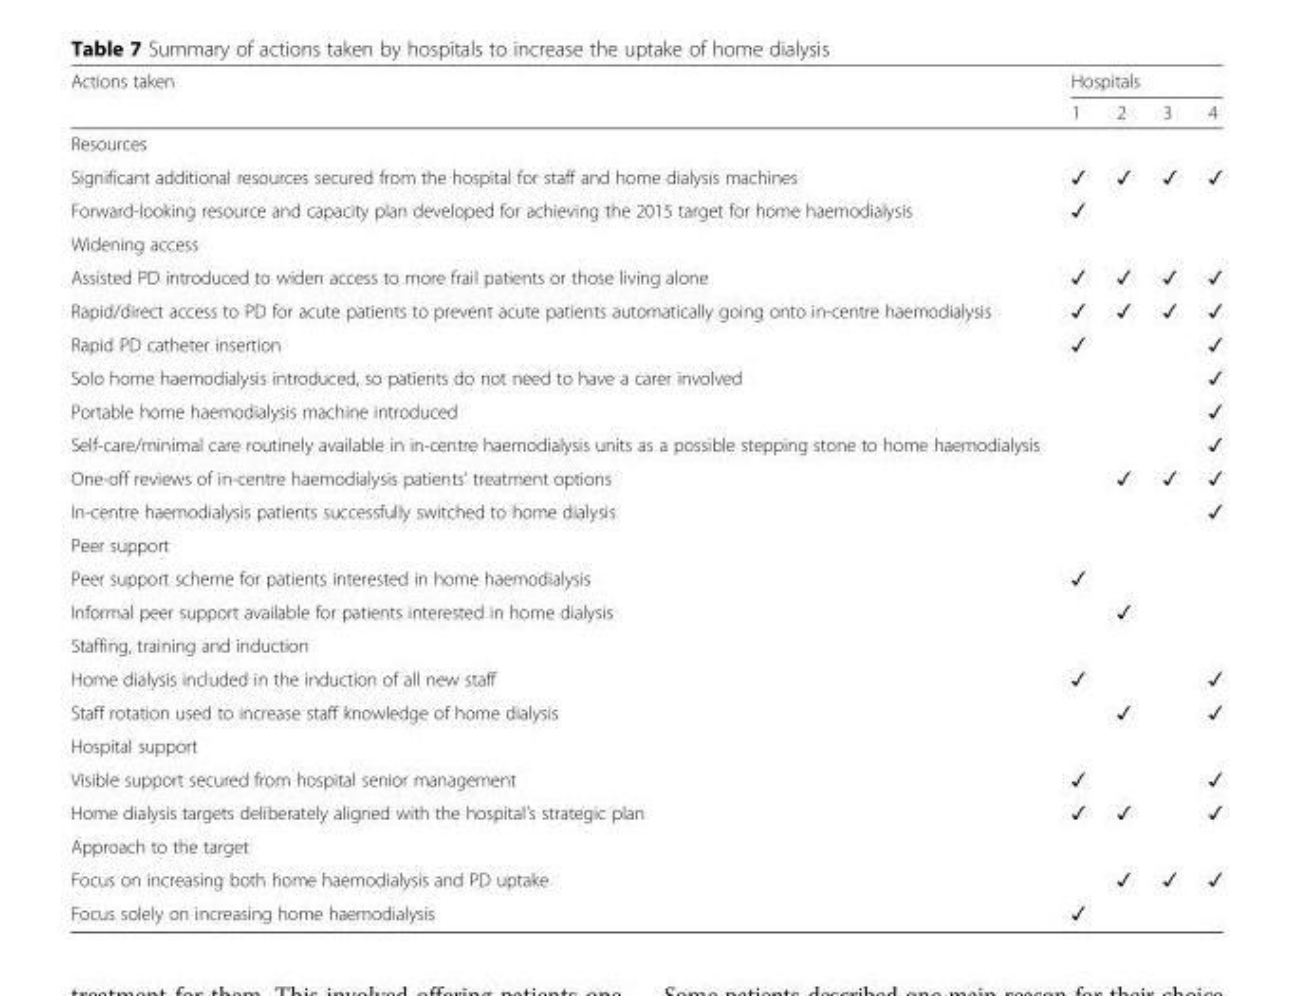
<table><thead><tr><td rowspan="2">Actions taken</td><td colspan="4">Hospitals</td></tr><tr><td>1</td><td>2</td><td>3</td><td>4</td></tr></thead><tbody><tr><td colspan="5">Resources</td></tr><tr><td>Significant additional resources secured from the hospital for staff and home dialysis machines</td><td>✓</td><td>✓</td><td>✓</td><td>✓</td></tr><tr><td>Forward-looking resource and capacity plan developed for achieving the 2015 target for home haemodialysis</td><td>✓</td><td></td><td></td><td></td></tr><tr><td colspan="5">Widening access</td></tr><tr><td>Assisted PD introduced to widen access to more frail patients or those living alone</td><td>✓</td><td>✓</td><td>✓</td><td>✓</td></tr><tr><td>Rapid/direct access to PD for acute patients to prevent acute patients automatically going onto in-centre haemodialysis</td><td>✓</td><td>✓</td><td>✓</td><td>✓</td></tr><tr><td>Rapid PD catheter insertion</td><td>✓</td><td></td><td></td><td>✓</td></tr><tr><td>Solo home haemodialysis introduced, so patients do not need to have a carer involved</td><td></td><td></td><td></td><td>✓</td></tr><tr><td>Portable home haemodialysis machine introduced</td><td></td><td></td><td></td><td>✓</td></tr><tr><td>Self-care/minimal care routinely available in in-centre haemodialysis units as a possible stepping stone to home haemodialysis</td><td></td><td></td><td></td><td>✓</td></tr><tr><td>One-off reviews of in-centre haemodialysis patients’ treatment options</td><td></td><td>✓</td><td>✓</td><td>✓</td></tr><tr><td>In-centre haemodialysis patients successfully switched to home dialysis</td><td></td><td></td><td></td><td>✓</td></tr><tr><td colspan="5">Peer support</td></tr><tr><td>Peer support scheme for patients interested in home haemodialysis</td><td>✓</td><td></td><td></td><td></td></tr><tr><td>Informal peer support available for patients interested in home dialysis</td><td></td><td>✓</td><td></td><td></td></tr><tr><td colspan="5">Staffing, training and induction</td></tr><tr><td>Home dialysis included in the induction of all new staff</td><td>✓</td><td></td><td></td><td>✓</td></tr><tr><td>Staff rotation used to increase staff knowledge of home dialysis</td><td></td><td>✓</td><td></td><td>✓</td></tr><tr><td colspan="5">Hospital support</td></tr><tr><td>Visible support secured from hospital senior management</td><td>✓</td><td></td><td></td><td>✓</td></tr><tr><td>Home dialysis targets deliberately aligned with the hospital’s strategic plan</td><td>✓</td><td>✓</td><td></td><td>✓</td></tr><tr><td colspan="5">Approach to the target</td></tr><tr><td>Focus on increasing both home haemodialysis and PD uptake</td><td></td><td>✓</td><td>✓</td><td>✓</td></tr><tr><td>Focus solely on increasing home haemodialysis</td><td>✓</td><td></td><td></td><td></td></tr></tbody></table>